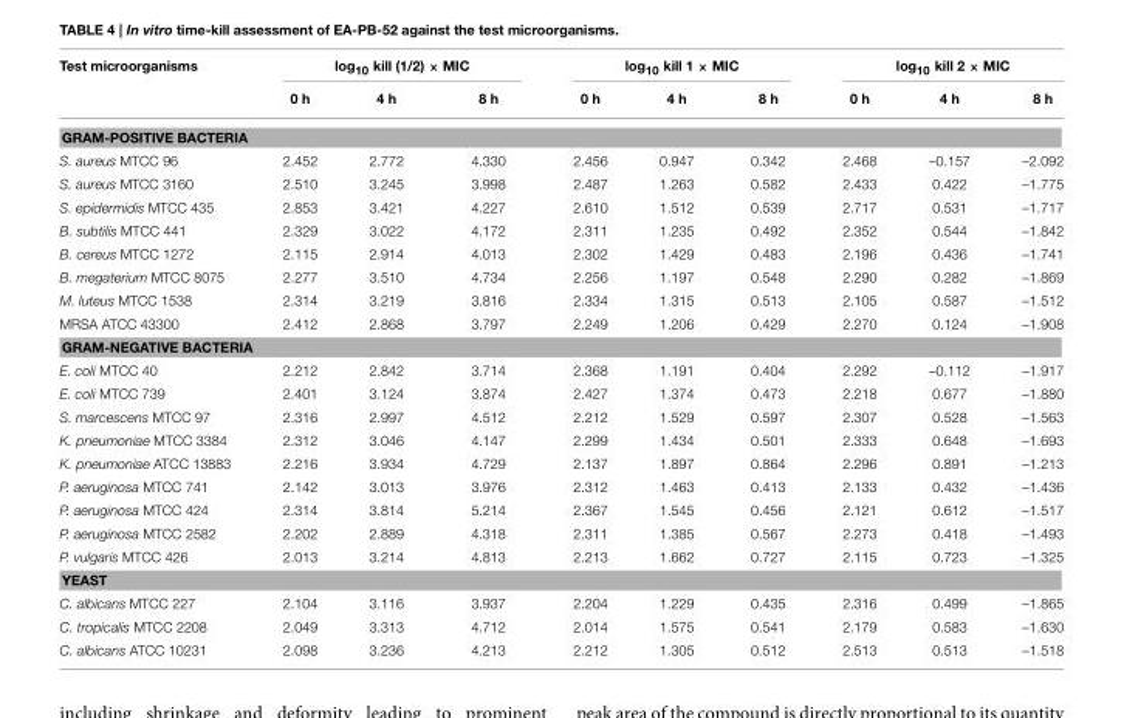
<table><thead><tr><td rowspan="2">Test microorganisms</td><td colspan="3">log<sub>10</sub> kill (1/2) × MIC</td><td colspan="3">log<sub>10</sub> kill 1 × MIC</td><td colspan="3">log<sub>10</sub> kill 2 × MIC</td></tr><tr><td>0 h</td><td>4 h</td><td>8 h</td><td>0 h</td><td>4 h</td><td>8 h</td><td>0 h</td><td>4 h</td><td>8 h</td></tr></thead><tbody><tr><td colspan="10">GRAM-POSITIVE BACTERIA</td></tr><tr><td>S. aureus MTCC 96</td><td>2.452</td><td>2.772</td><td>4.330</td><td>2.456</td><td>0.947</td><td>0.342</td><td>2.468</td><td>–0.157</td><td>–2.092</td></tr><tr><td>S. aureus MTCC 3160</td><td>2.510</td><td>3.245</td><td>3.998</td><td>2.487</td><td>1.263</td><td>0.582</td><td>2.433</td><td>0.422</td><td>–1.775</td></tr><tr><td>S. epidermidis MTCC 435</td><td>2.853</td><td>3.421</td><td>4.227</td><td>2.610</td><td>1.512</td><td>0.539</td><td>2.717</td><td>0.531</td><td>–1.717</td></tr><tr><td>B. subtilis MTCC 441</td><td>2.329</td><td>3.022</td><td>4.172</td><td>2.311</td><td>1.235</td><td>0.492</td><td>2.352</td><td>0.544</td><td>–1.842</td></tr><tr><td>B. cereus MTCC 1272</td><td>2.115</td><td>2.914</td><td>4.013</td><td>2.302</td><td>1.429</td><td>0.483</td><td>2.196</td><td>0.436</td><td>–1.741</td></tr><tr><td>B. megaterium MTCC 8075</td><td>2.277</td><td>3.510</td><td>4.734</td><td>2.256</td><td>1.197</td><td>0.548</td><td>2.290</td><td>0.282</td><td>–1.869</td></tr><tr><td>M. luteus MTCC 1538</td><td>2.314</td><td>3.219</td><td>3.816</td><td>2.334</td><td>1.315</td><td>0.513</td><td>2.105</td><td>0.587</td><td>–1.512</td></tr><tr><td>MRSA ATCC 43300</td><td>2.412</td><td>2.868</td><td>3.797</td><td>2.249</td><td>1.206</td><td>0.429</td><td>2.270</td><td>0.124</td><td>–1.908</td></tr><tr><td colspan="10">GRAM-NEGATIVE BACTERIA</td></tr><tr><td>E. coli MTCC 40</td><td>2.212</td><td>2.842</td><td>3.714</td><td>2.368</td><td>1.191</td><td>0.404</td><td>2.292</td><td>–0.112</td><td>–1.917</td></tr><tr><td>E. coli MTCC 739</td><td>2.401</td><td>3.124</td><td>3.874</td><td>2.427</td><td>1.374</td><td>0.473</td><td>2.218</td><td>0.677</td><td>–1.880</td></tr><tr><td>S. marcescens MTCC 97</td><td>2.316</td><td>2.997</td><td>4.512</td><td>2.212</td><td>1.529</td><td>0.597</td><td>2.307</td><td>0.528</td><td>–1.563</td></tr><tr><td>K. pneumoniae MTCC 3384</td><td>2.312</td><td>3.046</td><td>4.147</td><td>2.299</td><td>1.434</td><td>0.501</td><td>2.333</td><td>0.648</td><td>–1.693</td></tr><tr><td>K. pneumoniae ATCC 13883</td><td>2.216</td><td>3.934</td><td>4.729</td><td>2.137</td><td>1.897</td><td>0.864</td><td>2.296</td><td>0.891</td><td>–1.213</td></tr><tr><td>P. aeruginosa MTCC 741</td><td>2.142</td><td>3.013</td><td>3.976</td><td>2.312</td><td>1.463</td><td>0.413</td><td>2.133</td><td>0.432</td><td>–1.436</td></tr><tr><td>P. aeruginosa MTCC 424</td><td>2.314</td><td>3.814</td><td>5.214</td><td>2.367</td><td>1.545</td><td>0.456</td><td>2.121</td><td>0.612</td><td>–1.517</td></tr><tr><td>P. aeruginosa MTCC 2582</td><td>2.202</td><td>2.889</td><td>4.318</td><td>2.311</td><td>1.385</td><td>0.567</td><td>2.273</td><td>0.418</td><td>–1.493</td></tr><tr><td>P. vulgaris MTCC 426</td><td>2.013</td><td>3.214</td><td>4.813</td><td>2.213</td><td>1.662</td><td>0.727</td><td>2.115</td><td>0.723</td><td>–1.325</td></tr><tr><td colspan="10">YEAST</td></tr><tr><td>C. albicans MTCC 227</td><td>2.104</td><td>3.116</td><td>3.937</td><td>2.204</td><td>1.229</td><td>0.435</td><td>2.316</td><td>0.499</td><td>–1.865</td></tr><tr><td>C. tropicalis MTCC 2208</td><td>2.049</td><td>3.313</td><td>4.712</td><td>2.014</td><td>1.575</td><td>0.541</td><td>2.179</td><td>0.583</td><td>–1.630</td></tr><tr><td>C. albicans ATCC 10231</td><td>2.098</td><td>3.236</td><td>4.213</td><td>2.212</td><td>1.305</td><td>0.512</td><td>2.513</td><td>0.513</td><td>–1.518</td></tr></tbody></table>